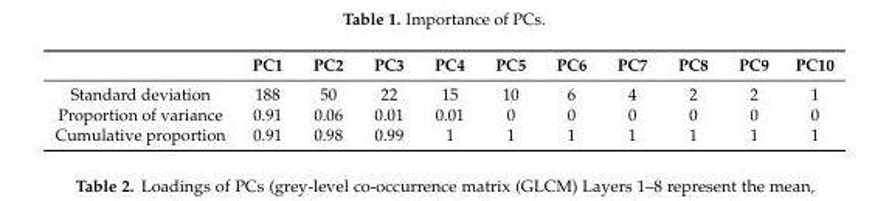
<table><thead><tr><td></td><td>PC1</td><td>PC2</td><td>PC3</td><td>PC4</td><td>PC5</td><td>PC6</td><td>PC7</td><td>PC8</td><td>PC9</td><td>PC10</td></tr></thead><tbody><tr><td>Standard deviation</td><td>188</td><td>50</td><td>22</td><td>15</td><td>10</td><td>6</td><td>4</td><td>2</td><td>2</td><td>1</td></tr><tr><td>Proportion of variance</td><td>0.91</td><td>0.06</td><td>0.01</td><td>0.01</td><td>0</td><td>0</td><td>0</td><td>0</td><td>0</td><td>0</td></tr><tr><td>Cumulative proportion</td><td>0.91</td><td>0.98</td><td>0.99</td><td>1</td><td>1</td><td>1</td><td>1</td><td>1</td><td>1</td><td>1</td></tr></tbody></table>